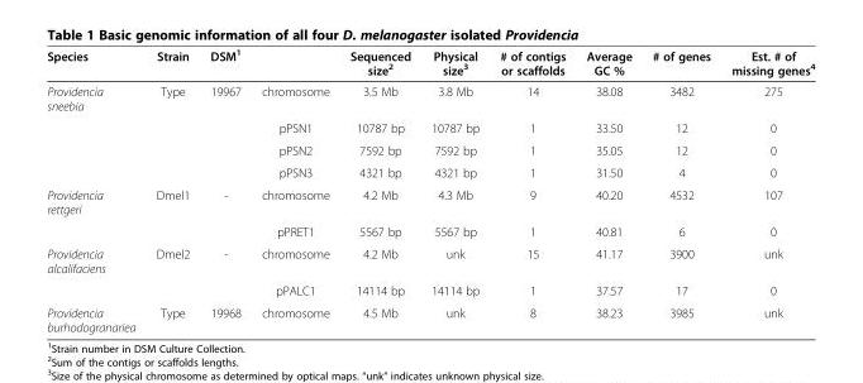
<table><thead><tr><td>Species</td><td>Strain</td><td>DSM<sup>1</sup></td><td></td><td>Sequenced size<sup>2</sup></td><td>Physical size<sup>3</sup></td><td># of contigs or scaffolds</td><td>Average GC %</td><td># of genes</td><td>Est. # of missing genes<sup>4</sup></td></tr></thead><tbody><tr><td rowspan="4">Providencia sneebia</td><td>Type</td><td>19967</td><td>chromosome</td><td>3.5 Mb</td><td>3.8 Mb</td><td>14</td><td>38.08</td><td>3482</td><td>275</td></tr><tr><td></td><td></td><td>pPSN1</td><td>10787 bp</td><td>10787 bp</td><td>1</td><td>33.50</td><td>12</td><td>0</td></tr><tr><td></td><td></td><td>pPSN2</td><td>7592 bp</td><td>7592 bp</td><td>1</td><td>35.05</td><td>12</td><td>0</td></tr><tr><td></td><td></td><td>pPSN3</td><td>4321 bp</td><td>4321 bp</td><td>1</td><td>31.50</td><td>4</td><td>0</td></tr><tr><td rowspan="2">Providencia rettgeri</td><td>Dmel1</td><td>-</td><td>chromosome</td><td>4.2 Mb</td><td>4.3 Mb</td><td>9</td><td>40.20</td><td>4532</td><td>107</td></tr><tr><td></td><td></td><td>pPRET1</td><td>5567 bp</td><td>5567 bp</td><td>1</td><td>40.81</td><td>6</td><td>0</td></tr><tr><td rowspan="2">Providencia alcalifaciens</td><td>Dmel2</td><td>-</td><td>chromosome</td><td>4.2 Mb</td><td>unk</td><td>15</td><td>41.17</td><td>3900</td><td>unk</td></tr><tr><td></td><td></td><td>pPALC1</td><td>14114 bp</td><td>14114 bp</td><td>1</td><td>37.57</td><td>17</td><td>0</td></tr><tr><td>Providencia burhodogranariea</td><td>Type</td><td>19968</td><td>chromosome</td><td>4.5 Mb</td><td>unk</td><td>8</td><td>38.23</td><td>3985</td><td>unk</td></tr></tbody></table>